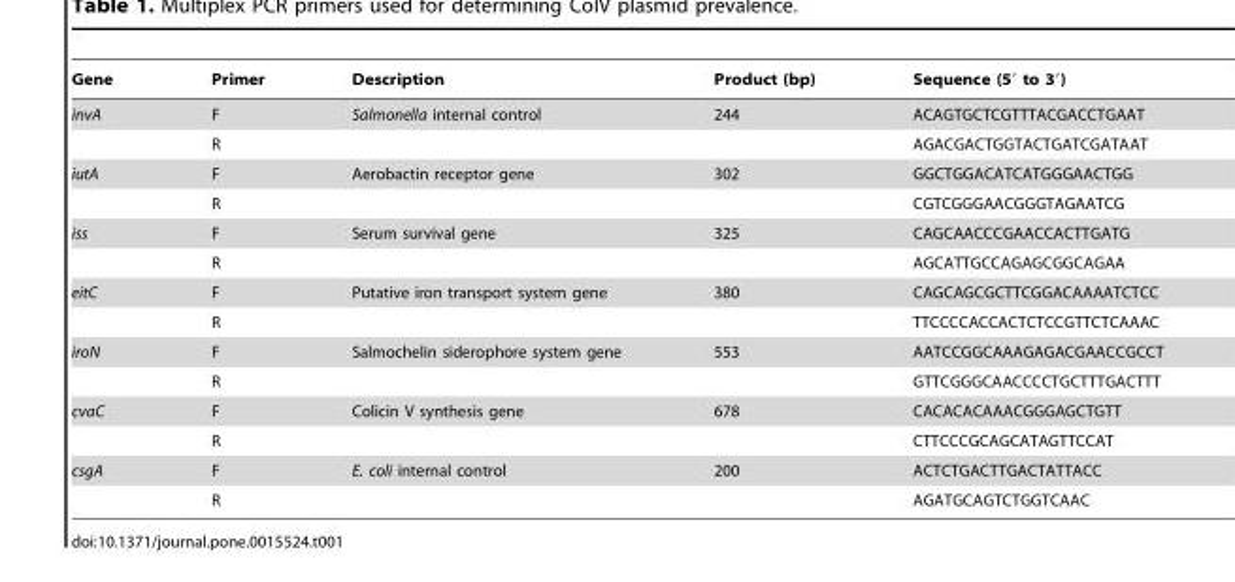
<table><thead><tr><td>Gene</td><td>Primer</td><td>Description</td><td>Product (bp)</td><td>Sequence (5′ to 3′)</td></tr></thead><tbody><tr><td rowspan="2">invA</td><td>F</td><td>Salmonella internal control</td><td>244</td><td>ACAGTGCTCGTTTACGACCTGAAT</td></tr><tr><td>R</td><td></td><td></td><td>AGACGACTGGTACTGATCGATAAT</td></tr><tr><td rowspan="2">iutA</td><td>F</td><td>Aerobactin receptor gene</td><td>302</td><td>GGCTGGACATCATGGGAACTGG</td></tr><tr><td>R</td><td></td><td></td><td>CGTCGGGAACGGGTAGAATCG</td></tr><tr><td rowspan="2">iss</td><td>F</td><td>Serum survival gene</td><td>325</td><td>CAGCAACCCGAACCACTTGATG</td></tr><tr><td>R</td><td></td><td></td><td>AGCATTGCCAGAGCGGCAGAA</td></tr><tr><td rowspan="2">eitC</td><td>F</td><td>Putative iron transport system gene</td><td>380</td><td>CAGCAGCGCTTCGGACAAAATCTCC</td></tr><tr><td>R</td><td></td><td></td><td>TTCCCCACCACTCTCCGTTCTCAAAC</td></tr><tr><td rowspan="2">iroN</td><td>F</td><td>Salmochelin siderophore system gene</td><td>553</td><td>AATCCGGCAAAGAGACGAACCGCCT</td></tr><tr><td>R</td><td></td><td></td><td>GTTCGGGCAACCCCTGCTTTGACTTT</td></tr><tr><td rowspan="2">cvaC</td><td>F</td><td>Colicin V synthesis gene</td><td>678</td><td>CACACACAAACGGGAGCTGTT</td></tr><tr><td>R</td><td></td><td></td><td>CTTCCCGCAGCATAGTTCCAT</td></tr><tr><td rowspan="2">csgA</td><td>F</td><td>E. coli internal control</td><td>200</td><td>ACTCTGACTTGACTATTACC</td></tr><tr><td>R</td><td></td><td></td><td>AGATGCAGTCTGGTCAAC</td></tr></tbody></table>